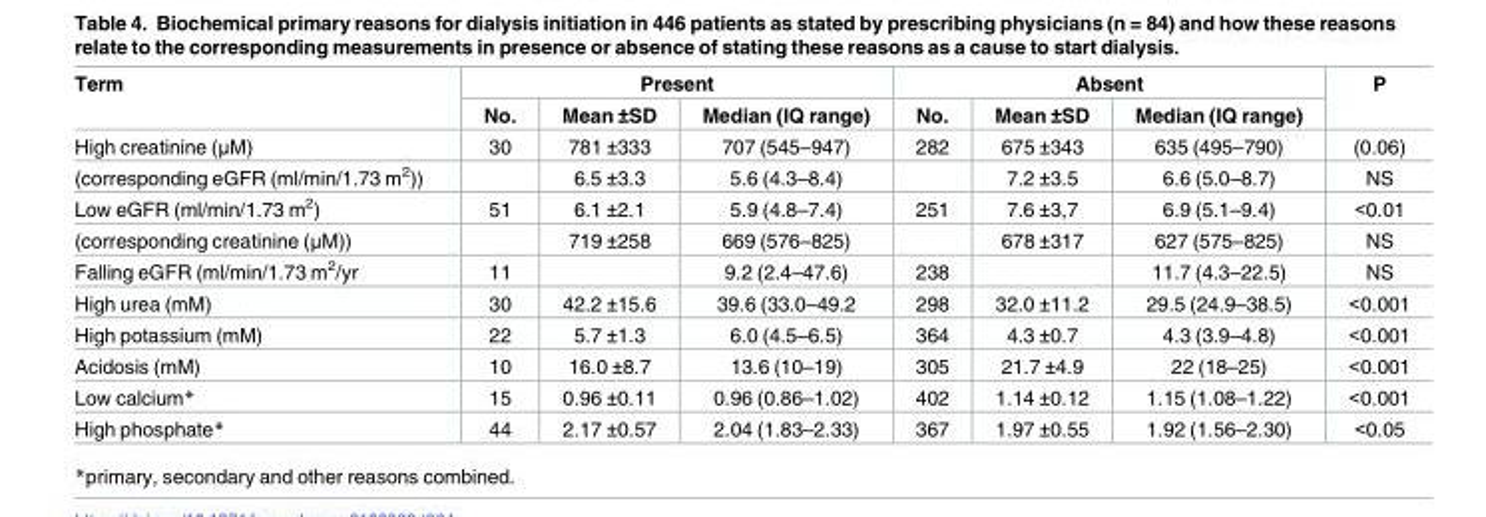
<table><thead><tr><td rowspan="2">Term</td><td colspan="3">Present</td><td colspan="3">Absent</td><td rowspan="2">P</td></tr><tr><td>No.</td><td>Mean ±SD</td><td>Median (IQ range)</td><td>No.</td><td>Mean ±SD</td><td>Median (IQ range)</td></tr></thead><tbody><tr><td>High creatinine (μM)</td><td>30</td><td>781 ±333</td><td>707 (545–947)</td><td>282</td><td>675 ±343</td><td>635 (495–790)</td><td>(0.06)</td></tr><tr><td>(corresponding eGFR (ml/min/1.73 m<sup>2</sup>))</td><td></td><td>6.5 ±3.3</td><td>5.6 (4.3–8.4)</td><td></td><td>7.2 ±3.5</td><td>6.6 (5.0–8.7)</td><td>NS</td></tr><tr><td>Low eGFR (ml/min/1.73 m<sup>2</sup>)</td><td>51</td><td>6.1 ±2.1</td><td>5.9 (4.8–7.4)</td><td>251</td><td>7.6 ±3,7</td><td>6.9 (5.1–9.4)</td><td>&lt;0.01</td></tr><tr><td>(corresponding creatinine (μM))</td><td></td><td>719 ±258</td><td>669 (576–825)</td><td></td><td>678 ±317</td><td>627 (575–825)</td><td>NS</td></tr><tr><td>Falling eGFR (ml/min/1.73 m<sup>2</sup>/yr</td><td>11</td><td></td><td>9.2 (2.4–47.6)</td><td>238</td><td></td><td>11.7 (4.3–22.5)</td><td>NS</td></tr><tr><td>High urea (mM)</td><td>30</td><td>42.2 ±15.6</td><td>39.6 (33.0–49.2</td><td>298</td><td>32.0 ±11.2</td><td>29.5 (24.9–38.5)</td><td>&lt;0.001</td></tr><tr><td>High potassium (mM)</td><td>22</td><td>5.7 ±1.3</td><td>6.0 (4.5–6.5)</td><td>364</td><td>4.3 ±0.7</td><td>4.3 (3.9–4.8)</td><td>&lt;0.001</td></tr><tr><td>Acidosis (mM)</td><td>10</td><td>16.0 ±8.7</td><td>13.6 (10–19)</td><td>305</td><td>21.7 ±4.9</td><td>22 (18–25)</td><td>&lt;0.001</td></tr><tr><td>Low calcium*</td><td>15</td><td>0.96 ±0.11</td><td>0.96 (0.86–1.02)</td><td>402</td><td>1.14 ±0.12</td><td>1.15 (1.08–1.22)</td><td>&lt;0.001</td></tr><tr><td>High phosphate*</td><td>44</td><td>2.17 ±0.57</td><td>2.04 (1.83–2.33)</td><td>367</td><td>1.97 ±0.55</td><td>1.92 (1.56–2.30)</td><td>&lt;0.05</td></tr></tbody></table>